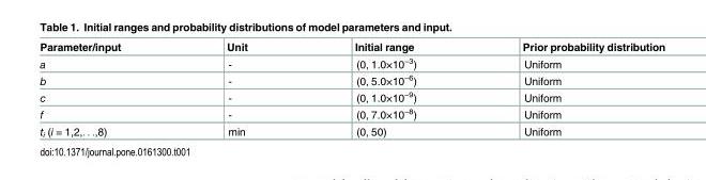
<table><thead><tr><td>Parameter/input</td><td>Unit</td><td>Initial range</td><td>Prior probability distribution</td></tr></thead><tbody><tr><td>a</td><td>-</td><td>(0, 1.0×10<sup>−3</sup>)</td><td>Uniform</td></tr><tr><td>b</td><td>-</td><td>(0, 5.0×10<sup>−6</sup>)</td><td>Uniform</td></tr><tr><td>c</td><td>-</td><td>(0, 1.0×10<sup>−9</sup>)</td><td>Uniform</td></tr><tr><td>f</td><td>-</td><td>(0, 7.0×10<sup>−8</sup>)</td><td>Uniform</td></tr><tr><td>t<sub>i</sub> (i = 1,2,. . .,8)</td><td>min</td><td>(0, 50)</td><td>Uniform</td></tr></tbody></table>